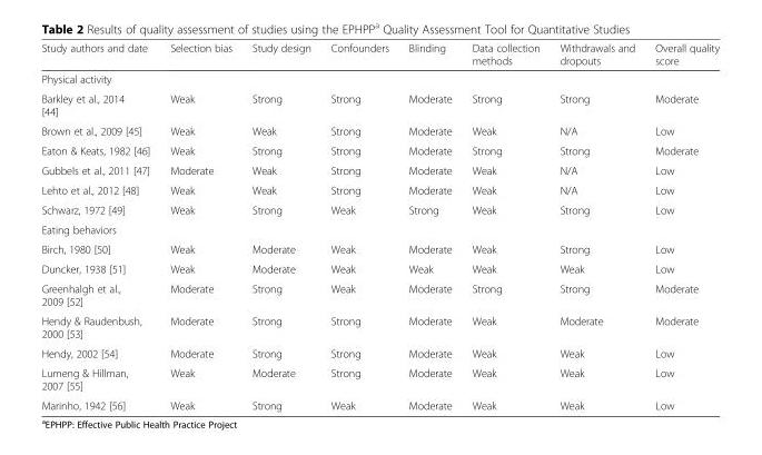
<table><thead><tr><td>Study authors and date</td><td>Selection bias</td><td>Study design</td><td>Confounders</td><td>Blinding</td><td>Data collection methods</td><td>Withdrawals and dropouts</td><td>Overall quality score</td></tr></thead><tbody><tr><td colspan="8">Physical activity</td></tr><tr><td>Barkley et al., 2014 [44]</td><td>Weak</td><td>Strong</td><td>Strong</td><td>Moderate</td><td>Strong</td><td>Strong</td><td>Moderate</td></tr><tr><td>Brown et al., 2009 [45]</td><td>Weak</td><td>Weak</td><td>Strong</td><td>Moderate</td><td>Weak</td><td>N/A</td><td>Low</td></tr><tr><td>Eaton &amp; Keats, 1982 [46]</td><td>Weak</td><td>Strong</td><td>Strong</td><td>Moderate</td><td>Strong</td><td>Strong</td><td>Moderate</td></tr><tr><td>Gubbels et al., 2011 [47]</td><td>Moderate</td><td>Weak</td><td>Strong</td><td>Moderate</td><td>Weak</td><td>N/A</td><td>Low</td></tr><tr><td>Lehto et al., 2012 [48]</td><td>Weak</td><td>Weak</td><td>Strong</td><td>Moderate</td><td>Weak</td><td>N/A</td><td>Low</td></tr><tr><td>Schwarz, 1972 [49]</td><td>Weak</td><td>Strong</td><td>Weak</td><td>Strong</td><td>Weak</td><td>Strong</td><td>Low</td></tr><tr><td colspan="8">Eating behaviors</td></tr><tr><td>Birch, 1980 [50]</td><td>Weak</td><td>Moderate</td><td>Weak</td><td>Moderate</td><td>Weak</td><td>Strong</td><td>Low</td></tr><tr><td>Duncker, 1938 [51]</td><td>Weak</td><td>Moderate</td><td>Weak</td><td>Weak</td><td>Weak</td><td>Weak</td><td>Low</td></tr><tr><td>Greenhalgh et al., 2009 [52]</td><td>Moderate</td><td>Strong</td><td>Weak</td><td>Moderate</td><td>Strong</td><td>Strong</td><td>Moderate</td></tr><tr><td>Hendy &amp; Raudenbush, 2000 [53]</td><td>Moderate</td><td>Strong</td><td>Strong</td><td>Moderate</td><td>Weak</td><td>Moderate</td><td>Moderate</td></tr><tr><td>Hendy, 2002 [54]</td><td>Moderate</td><td>Strong</td><td>Strong</td><td>Moderate</td><td>Weak</td><td>Weak</td><td>Low</td></tr><tr><td>Lumeng &amp; Hillman, 2007 [55]</td><td>Weak</td><td>Moderate</td><td>Strong</td><td>Moderate</td><td>Weak</td><td>Weak</td><td>Low</td></tr><tr><td>Marinho, 1942 [56]</td><td>Weak</td><td>Strong</td><td>Weak</td><td>Moderate</td><td>Weak</td><td>Weak</td><td>Low</td></tr></tbody></table>